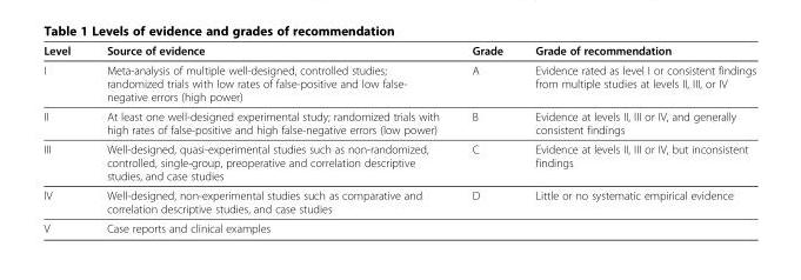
<table><thead><tr><td>Level</td><td>Source of evidence</td><td>Grade</td><td>Grade of recommendation</td></tr></thead><tbody><tr><td>I</td><td>Meta-analysis of multiple well-designed, controlled studies; randomized trials with low rates of false-positive and low false- negative errors (high power)</td><td>A</td><td>Evidence rated as level I or consistent findings from multiple studies at levels II, III, or IV</td></tr><tr><td>II</td><td>At least one well-designed experimental study; randomized trials with high rates of false-positive and high false-negative errors (low power)</td><td>B</td><td>Evidence at levels II, III or IV, and generally consistent findings</td></tr><tr><td>III</td><td>Well-designed, quasi-experimental studies such as non-randomized, controlled, single-group, preoperative and correlation descriptive studies, and case studies</td><td>C</td><td>Evidence at levels II, III or IV, but inconsistent findings</td></tr><tr><td>IV</td><td>Well-designed, non-experimental studies such as comparative and correlation descriptive studies, and case studies</td><td>D</td><td>Little or no systematic empirical evidence</td></tr><tr><td>V</td><td>Case reports and clinical examples</td><td></td><td></td></tr></tbody></table>